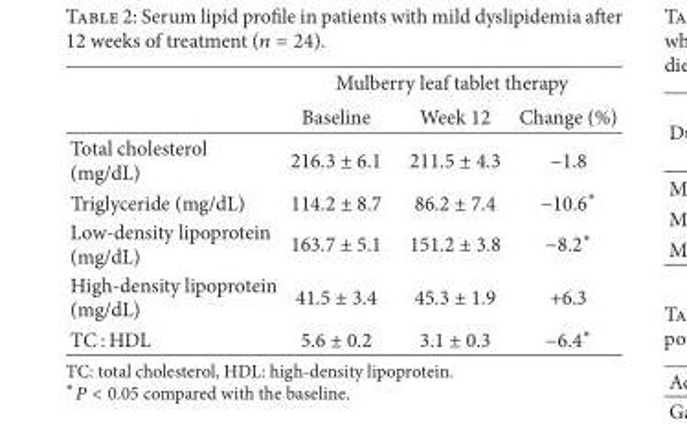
<table><thead><tr><td rowspan="2"></td><td colspan="3">Mulberry leaf tablet therapy</td></tr><tr><td>Baseline</td><td>Week 12</td><td>Change (%)</td></tr></thead><tbody><tr><td>Total cholesterol (mg/dL)</td><td>216.3 ± 6.1</td><td>211.5 ± 4.3</td><td>−1.8</td></tr><tr><td>Triglyceride (mg/dL)</td><td>114.2 ± 8.7</td><td>86.2 ± 7.4</td><td>−10.6∗</td></tr><tr><td>Low-density lipoprotein (mg/dL)</td><td>163.7 ± 5.1</td><td>151.2 ± 3.8</td><td>−8.2∗</td></tr><tr><td>High-density lipoprotein (mg/dL)</td><td>41.5 ± 3.4</td><td>45.3 ± 1.9</td><td>+6.3</td></tr><tr><td>TC : HDL</td><td>5.6 ± 0.2</td><td>3.1 ± 0.3</td><td>−6.4∗</td></tr></tbody></table>